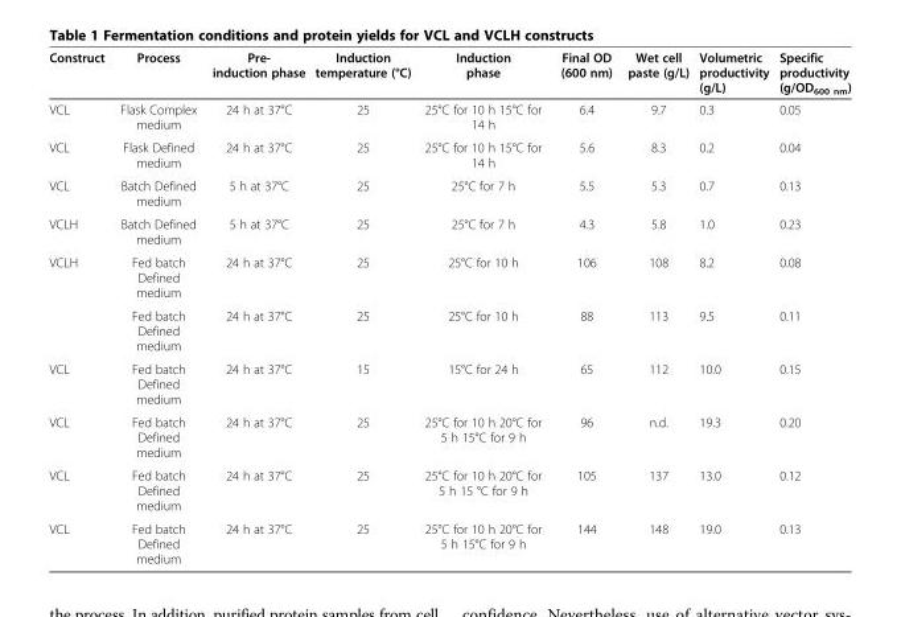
<table><thead><tr><td>Construct</td><td>Process</td><td>Pre- induction phase</td><td>Induction temperature (°C)</td><td>Induction phase</td><td>Final OD (600 nm)</td><td>Wet cell paste (g/L)</td><td>Volumetric productivity (g/L)</td><td>Specific productivity (g/OD<sub>600 nm</sub>)</td></tr></thead><tbody><tr><td>VCL</td><td>Flask Complex medium</td><td>24 h at 37°C</td><td>25</td><td>25°C for 10 h 15°C for 14 h</td><td>6.4</td><td>9.7</td><td>0.3</td><td>0.05</td></tr><tr><td>VCL</td><td>Flask Defined medium</td><td>24 h at 37°C</td><td>25</td><td>25°C for 10 h 15°C for 14 h</td><td>5.6</td><td>8.3</td><td>0.2</td><td>0.04</td></tr><tr><td>VCL</td><td>Batch Defined medium</td><td>5 h at 37°C</td><td>25</td><td>25°C for 7 h</td><td>5.5</td><td>5.3</td><td>0.7</td><td>0.13</td></tr><tr><td>VCLH</td><td>Batch Defined medium</td><td>5 h at 37°C</td><td>25</td><td>25°C for 7 h</td><td>4.3</td><td>5.8</td><td>1.0</td><td>0.23</td></tr><tr><td rowspan="2">VCLH</td><td>Fed batch Defined medium</td><td>24 h at 37°C</td><td>25</td><td>25°C for 10 h</td><td>106</td><td>108</td><td>8.2</td><td>0.08</td></tr><tr><td>Fed batch Defined medium</td><td>24 h at 37°C</td><td>25</td><td>25°C for 10 h</td><td>88</td><td>113</td><td>9.5</td><td>0.11</td></tr><tr><td>VCL</td><td>Fed batch Defined medium</td><td>24 h at 37°C</td><td>15</td><td>15°C for 24 h</td><td>65</td><td>112</td><td>10.0</td><td>0.15</td></tr><tr><td>VCL</td><td>Fed batch Defined medium</td><td>24 h at 37°C</td><td>25</td><td>25°C for 10 h 20°C for 5 h 15°C for 9 h</td><td>96</td><td>n.d.</td><td>19.3</td><td>0.20</td></tr><tr><td>VCL</td><td>Fed batch Defined medium</td><td>24 h at 37°C</td><td>25</td><td>25°C for 10 h 20°C for 5 h 15 °C for 9 h</td><td>105</td><td>137</td><td>13.0</td><td>0.12</td></tr><tr><td>VCL</td><td>Fed batch Defined medium</td><td>24 h at 37°C</td><td>25</td><td>25°C for 10 h 20°C for 5 h 15°C for 9 h</td><td>144</td><td>148</td><td>19.0</td><td>0.13</td></tr></tbody></table>